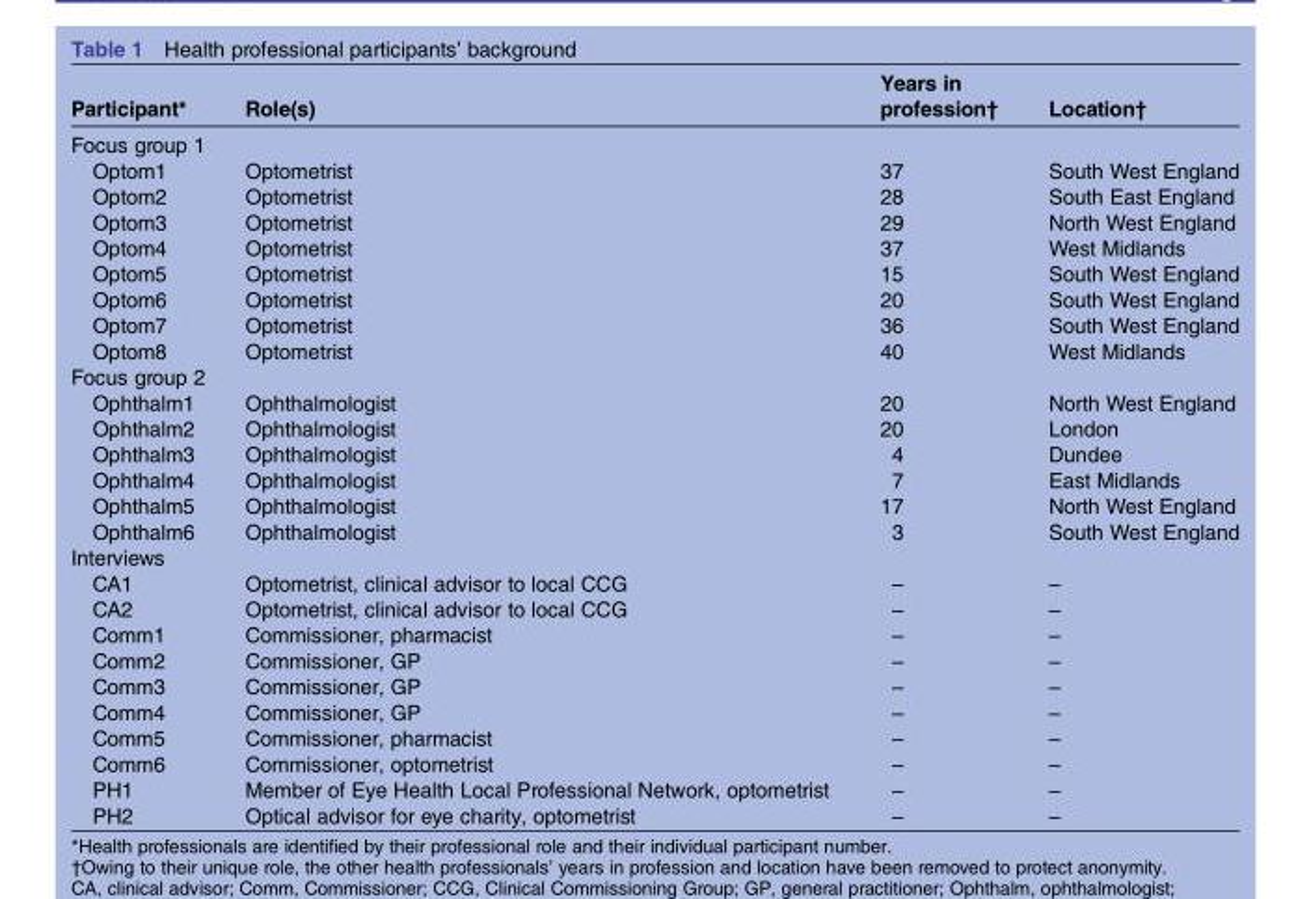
<table><thead><tr><td>Participant*</td><td>Role(s)</td><td>Years in profession†</td><td>Location†</td></tr></thead><tbody><tr><td colspan="4">Focus group 1</td></tr><tr><td>Optom1</td><td>Optometrist</td><td>37</td><td>South West England</td></tr><tr><td>Optom2</td><td>Optometrist</td><td>28</td><td>South East England</td></tr><tr><td>Optom3</td><td>Optometrist</td><td>29</td><td>North West England</td></tr><tr><td>Optom4</td><td>Optometrist</td><td>37</td><td>West Midlands</td></tr><tr><td>Optom5</td><td>Optometrist</td><td>15</td><td>South West England</td></tr><tr><td>Optom6</td><td>Optometrist</td><td>20</td><td>South West England</td></tr><tr><td>Optom7</td><td>Optometrist</td><td>36</td><td>South West England</td></tr><tr><td>Optom8</td><td>Optometrist</td><td>40</td><td>West Midlands</td></tr><tr><td colspan="4">Focus group 2</td></tr><tr><td>Ophthalm1</td><td>Ophthalmologist</td><td>20</td><td>North West England</td></tr><tr><td>Ophthalm2</td><td>Ophthalmologist</td><td>20</td><td>London</td></tr><tr><td>Ophthalm3</td><td>Ophthalmologist</td><td>4</td><td>Dundee</td></tr><tr><td>Ophthalm4</td><td>Ophthalmologist</td><td>7</td><td>East Midlands</td></tr><tr><td>Ophthalm5</td><td>Ophthalmologist</td><td>17</td><td>North West England</td></tr><tr><td>Ophthalm6</td><td>Ophthalmologist</td><td>3</td><td>South West England</td></tr><tr><td colspan="4">Interviews</td></tr><tr><td>CA1</td><td>Optometrist, clinical advisor to local CCG</td><td>–</td><td>–</td></tr><tr><td>CA2</td><td>Optometrist, clinical advisor to local CCG</td><td>–</td><td>–</td></tr><tr><td>Comm1</td><td>Commissioner, pharmacist</td><td>–</td><td>–</td></tr><tr><td>Comm2</td><td>Commissioner, GP</td><td>–</td><td>–</td></tr><tr><td>Comm3</td><td>Commissioner, GP</td><td>–</td><td>–</td></tr><tr><td>Comm4</td><td>Commissioner, GP</td><td>–</td><td>–</td></tr><tr><td>Comm5</td><td>Commissioner, pharmacist</td><td>–</td><td>–</td></tr><tr><td>Comm6</td><td>Commissioner, optometrist</td><td>–</td><td>–</td></tr><tr><td>PH1</td><td>Member of Eye Health Local Professional Network, optometrist</td><td>–</td><td>–</td></tr><tr><td>PH2</td><td>Optical advisor for eye charity, optometrist</td><td>–</td><td>–</td></tr></tbody></table>